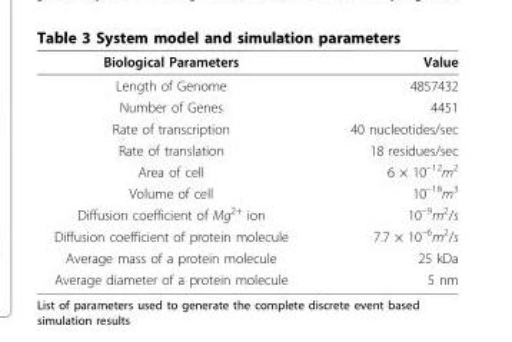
<table><thead><tr><td>Biological Parameters</td><td>Value</td></tr></thead><tbody><tr><td>Length of Genome</td><td>4857432</td></tr><tr><td>Number of Genes</td><td>4451</td></tr><tr><td>Rate of transcription</td><td>40 nucleotides/sec</td></tr><tr><td>Rate of translation</td><td>18 residues/sec</td></tr><tr><td>Area of cell</td><td>6 × 10<sup>–12</sup>m<sup>2</sup></td></tr><tr><td>Volume of cell</td><td>10<sup>–18</sup>m<sup>3</sup></td></tr><tr><td>Diffusion coefficient of Mg<sup>2+</sup> ion</td><td>10<sup>–9</sup>m<sup>2</sup>/s</td></tr><tr><td>Diffusion coefficient of protein molecule</td><td>7.7 × 10<sup>–6</sup>m<sup>2</sup>/s</td></tr><tr><td>Average mass of a protein molecule</td><td>25 kDa</td></tr><tr><td>Average diameter of a protein molecule</td><td>5 nm</td></tr></tbody></table>